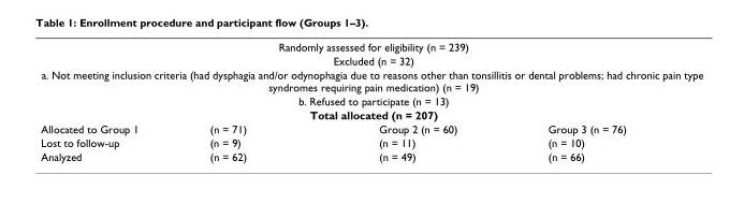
<table><tbody><tr><td colspan="4">Randomly assessed for eligibility (n = 239)</td></tr><tr><td colspan="4">Excluded (n = 32)</td></tr><tr><td colspan="4">a. Not meeting inclusion criteria (had dysphagia and/or odynophagia due to reasons other than tonsillitis or dental problems; had chronic pain type syndromes requiring pain medication) (n = 19)</td></tr><tr><td colspan="4">b. Refused to participate (n = 13)</td></tr><tr><td colspan="4">Total allocated (n = 207)</td></tr><tr><td>Allocated to Group 1</td><td>(n = 71)</td><td>Group 2 (n = 60)</td><td>Group 3 (n = 76)</td></tr><tr><td>Lost to follow-up</td><td>(n = 9)</td><td>(n = 11)</td><td>(n = 10)</td></tr><tr><td>Analyzed</td><td>(n = 62)</td><td>(n = 49)</td><td>(n = 66)</td></tr></tbody></table>